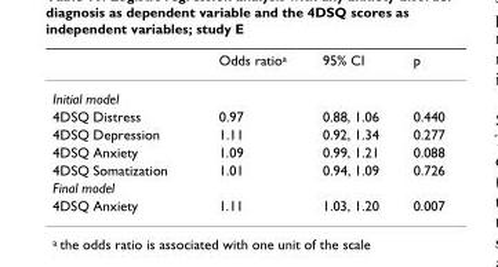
<table><thead><tr><td></td><td>Odds ratio<sup>a</sup></td><td>95% CI</td><td>p</td></tr></thead><tbody><tr><td colspan="4">Initial model</td></tr><tr><td>4DSQ Distress</td><td>0.97</td><td>0.88, 1.06</td><td>0.440</td></tr><tr><td>4DSQ Depression</td><td>1.11</td><td>0.92, 1.34</td><td>0.277</td></tr><tr><td>4DSQ Anxiety</td><td>1.09</td><td>0.99, 1.21</td><td>0.088</td></tr><tr><td>4DSQ Somatization</td><td>1.01</td><td>0.94, 1.09</td><td>0.726</td></tr><tr><td colspan="4">Final model</td></tr><tr><td>4DSQ Anxiety</td><td>1.11</td><td>1.03, 1.20</td><td>0.007</td></tr></tbody></table>